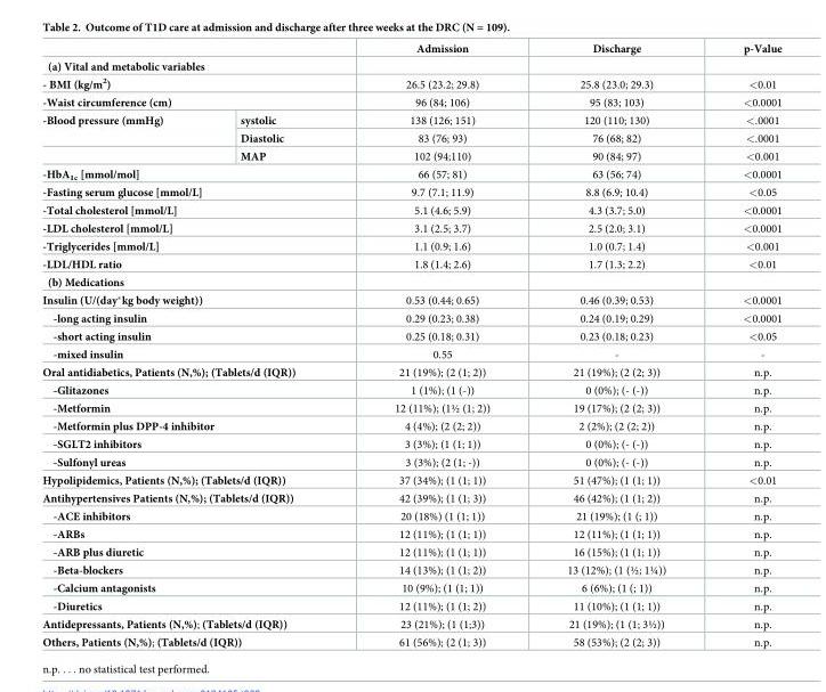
<table><thead><tr><td></td><td></td><td>Admission</td><td>Discharge</td><td>p-Value</td></tr></thead><tbody><tr><td colspan="5">(a) Vital and metabolic variables</td></tr><tr><td colspan="2">- BMI (kg/m<sup>2</sup>)</td><td>26.5 (23.2; 29.8)</td><td>25.8 (23.0; 29.3)</td><td>&lt;0.01</td></tr><tr><td colspan="2">-Waist circumference (cm)</td><td>96 (84; 106)</td><td>95 (83; 103)</td><td>&lt;0.0001</td></tr><tr><td rowspan="3">-Blood pressure (mmHg)</td><td>systolic</td><td>138 (126; 151)</td><td>120 (110; 130)</td><td>&lt;.0001</td></tr><tr><td>Diastolic</td><td>83 (76; 93)</td><td>76 (68; 82)</td><td>&lt;.0001</td></tr><tr><td>MAP</td><td>102 (94;110)</td><td>90 (84; 97)</td><td>&lt;0.001</td></tr><tr><td colspan="2">-HbA<sub>1c</sub> [mmol/mol]</td><td>66 (57; 81)</td><td>63 (56; 74)</td><td>&lt;0.0001</td></tr><tr><td colspan="2">-Fasting serum glucose [mmol/L]</td><td>9.7 (7.1; 11.9)</td><td>8.8 (6.9; 10.4)</td><td>&lt;0.05</td></tr><tr><td colspan="2">-Total cholesterol [mmol/L]</td><td>5.1 (4.6; 5.9)</td><td>4.3 (3.7; 5.0)</td><td>&lt;0.0001</td></tr><tr><td colspan="2">-LDL cholesterol [mmol/L]</td><td>3.1 (2.5; 3.7)</td><td>2.5 (2.0; 3.1)</td><td>&lt;0.0001</td></tr><tr><td colspan="2">-Triglycerides [mmol/L]</td><td>1.1 (0.9; 1.6)</td><td>1.0 (0.7; 1.4)</td><td>&lt;0.001</td></tr><tr><td colspan="2">-LDL/HDL ratio</td><td>1.8 (1.4; 2.6)</td><td>1.7 (1.3; 2.2)</td><td>&lt;0.01</td></tr><tr><td colspan="5">(b) Medications</td></tr><tr><td colspan="2">Insulin (U/(day*kg body weight))</td><td>0.53 (0.44; 0.65)</td><td>0.46 (0.39; 0.53)</td><td>&lt;0.0001</td></tr><tr><td colspan="2">-long acting insulin</td><td>0.29 (0.23; 0.38)</td><td>0.24 (0.19; 0.29)</td><td>&lt;0.0001</td></tr><tr><td colspan="2">-short acting insulin</td><td>0.25 (0.18; 0.31)</td><td>0.23 (0.18; 0.23)</td><td>&lt;0.05</td></tr><tr><td colspan="2">-mixed insulin</td><td>0.55</td><td>-</td><td>-</td></tr><tr><td colspan="2">Oral antidiabetics, Patients (N,%); (Tablets/d (IQR))</td><td>21 (19%); (2 (1; 2))</td><td>21 (19%); (2 (2; 3))</td><td>n.p.</td></tr><tr><td colspan="2">-Glitazones</td><td>1 (1%); (1 (-))</td><td>0 (0%); (- (-))</td><td>n.p.</td></tr><tr><td colspan="2">-Metformin</td><td>12 (11%); (1½ (1; 2))</td><td>19 (17%); (2 (2; 3))</td><td>n.p.</td></tr><tr><td colspan="2">-Metformin plus DPP-4 inhibitor</td><td>4 (4%); (2 (2; 2))</td><td>2 (2%); (2 (2; 2))</td><td>n.p.</td></tr><tr><td colspan="2">-SGLT2 inhibitors</td><td>3 (3%); (1 (1; 1))</td><td>0 (0%); (- (-))</td><td>n.p.</td></tr><tr><td colspan="2">-Sulfonyl ureas</td><td>3 (3%); (2 (1; -))</td><td>0 (0%); (- (-))</td><td>n.p.</td></tr><tr><td colspan="2">Hypolipidemics, Patients (N,%); (Tablets/d (IQR))</td><td>37 (34%); (1 (1; 1))</td><td>51 (47%); (1 (1; 1))</td><td>&lt;0.01</td></tr><tr><td colspan="2">Antihypertensives Patients (N,%); (Tablets/d (IQR))</td><td>42 (39%); (1 (1; 3))</td><td>46 (42%); (1 (1; 2))</td><td>n.p.</td></tr><tr><td colspan="2">-ACE inhibitors</td><td>20 (18%) (1 (1; 1))</td><td>21 (19%); (1 (; 1))</td><td>n.p.</td></tr><tr><td colspan="2">-ARBs</td><td>12 (11%); (1 (1; 1))</td><td>12 (11%); (1 (1; 1))</td><td>n.p.</td></tr><tr><td colspan="2">-ARB plus diuretic</td><td>12 (11%); (1 (1; 1))</td><td>16 (15%); (1 (1; 1))</td><td>n.p.</td></tr><tr><td colspan="2">-Beta-blockers</td><td>14 (13%); (1 (1; 2))</td><td>13 (12%); (1 (½; 1¼))</td><td>n.p.</td></tr><tr><td colspan="2">-Calcium antagonists</td><td>10 (9%); (1 (1; 1))</td><td>6 (6%); (1 (; 1))</td><td>n.p.</td></tr><tr><td colspan="2">-Diuretics</td><td>12 (11%); (1 (1; 2))</td><td>11 (10%); (1 (1; 1))</td><td>n.p.</td></tr><tr><td colspan="2">Antidepressants, Patients (N,%); (Tablets/d (IQR))</td><td>23 (21%); (1 (1;3))</td><td>21 (19%); (1 (1; 3½))</td><td>n.p.</td></tr><tr><td colspan="2">Others, Patients (N,%); (Tablets/d (IQR))</td><td>61 (56%); (2 (1; 3))</td><td>58 (53%); (2 (2; 3))</td><td>n.p.</td></tr></tbody></table>